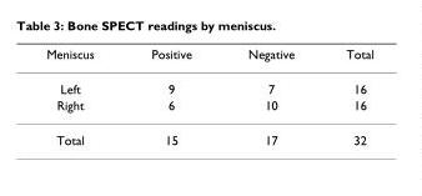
<table><thead><tr><td>Meniscus</td><td>Positive</td><td>Negative</td><td>Total</td></tr></thead><tbody><tr><td>Left</td><td>9</td><td>7</td><td>16</td></tr><tr><td>Right</td><td>6</td><td>10</td><td>16</td></tr><tr><td>Total</td><td>15</td><td>17</td><td>32</td></tr></tbody></table>